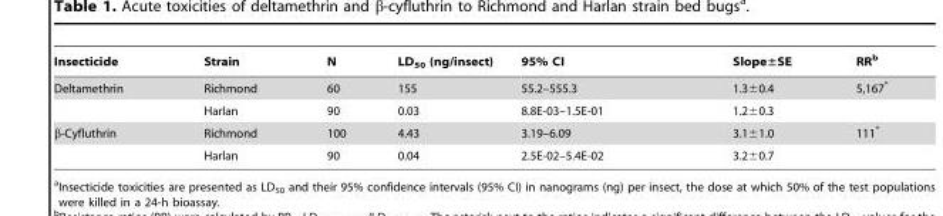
<table><thead><tr><td>Insecticide</td><td>Strain</td><td>N</td><td>LD<sub>50</sub> (ng/insect)</td><td>95% CI</td><td>Slope±SE</td><td>RR<sup>b</sup></td></tr></thead><tbody><tr><td rowspan="2">Deltamethrin</td><td>Richmond</td><td>60</td><td>155</td><td>55.2–555.3</td><td>1.3±0.4</td><td>5,167*</td></tr><tr><td>Harlan</td><td>90</td><td>0.03</td><td>8.8E-03–1.5E-01</td><td>1.2±0.3</td><td></td></tr><tr><td rowspan="2">β-Cyfluthrin</td><td>Richmond</td><td>100</td><td>4.43</td><td>3.19–6.09</td><td>3.1±1.0</td><td>111*</td></tr><tr><td>Harlan</td><td>90</td><td>0.04</td><td>2.5E-02–5.4E-02</td><td>3.2±0.7</td><td></td></tr></tbody></table>